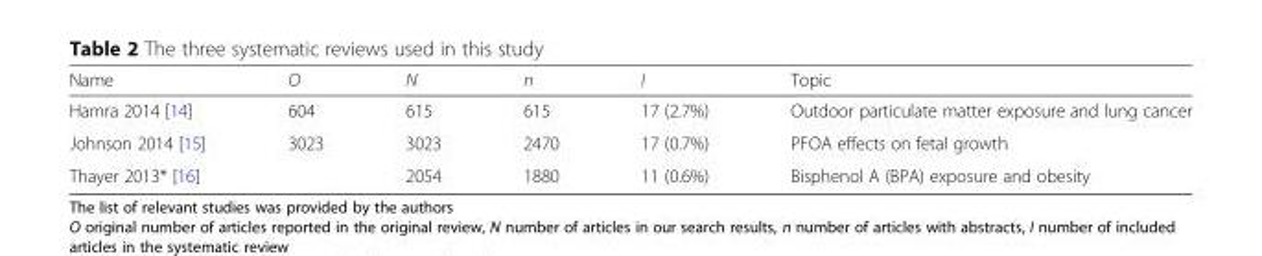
<table><thead><tr><td>Name</td><td>O</td><td>N</td><td>n</td><td>I</td><td>Topic</td></tr></thead><tbody><tr><td>Hamra 2014 [14]</td><td>604</td><td>615</td><td>615</td><td>17 (2.7%)</td><td>Outdoor particulate matter exposure and lung cancer</td></tr><tr><td>Johnson 2014 [15]</td><td>3023</td><td>3023</td><td>2470</td><td>17 (0.7%)</td><td>PFOA effects on fetal growth</td></tr><tr><td>Thayer 2013* [16]</td><td></td><td>2054</td><td>1880</td><td>11 (0.6%)</td><td>Bisphenol A (BPA) exposure and obesity</td></tr></tbody></table>